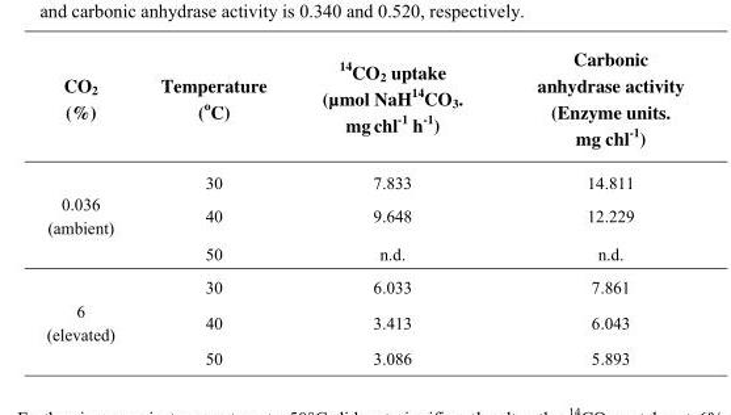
<table><thead><tr><td>CO<sub>2</sub> (%)</td><td>Temperature (°C)</td><td><sup>14</sup>CO<sub>2</sub> uptake (µmol NaH<sup>14</sup>CO<sub>3</sub>. mg chl<sup>-1</sup> h<sup>-1</sup>)</td><td>Carbonic anhydrase activity (Enzyme units. mg chl<sup>-1</sup>)</td></tr></thead><tbody><tr><td rowspan="3">0.036 (ambient)</td><td>30</td><td>7.833</td><td>14.811</td></tr><tr><td>40</td><td>9.648</td><td>12.229</td></tr><tr><td>50</td><td>n.d.</td><td>n.d.</td></tr><tr><td rowspan="3">6 (elevated)</td><td>30</td><td>6.033</td><td>7.861</td></tr><tr><td>40</td><td>3.413</td><td>6.043</td></tr><tr><td>50</td><td>3.086</td><td>5.893</td></tr></tbody></table>